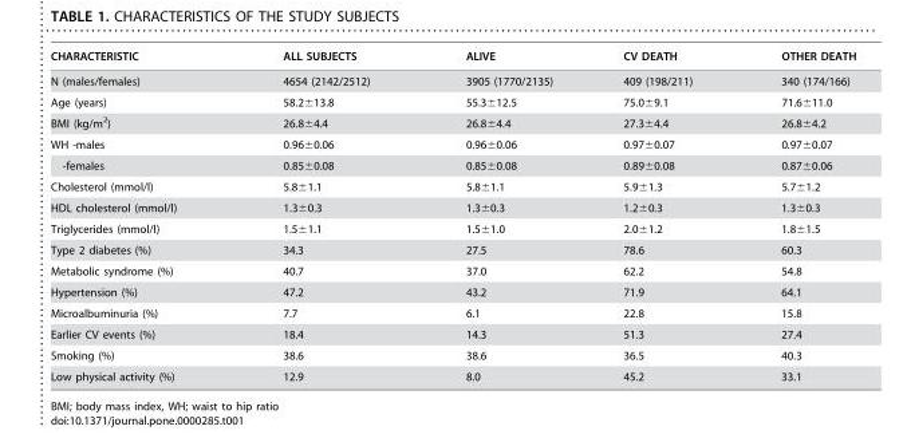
<table><thead><tr><td>CHARACTERISTIC</td><td>ALL SUBJECTS</td><td>ALIVE</td><td>CV DEATH</td><td>OTHER DEATH</td></tr></thead><tbody><tr><td>N (males/females)</td><td>4654 (2142/2512)</td><td>3905 (1770/2135)</td><td>409 (198/211)</td><td>340 (174/166)</td></tr><tr><td>Age (years)</td><td>58.2±13.8</td><td>55.3±12.5</td><td>75.0±9.1</td><td>71.6±11.0</td></tr><tr><td>BMI (kg/m<sup>2</sup>)</td><td>26.8±4.4</td><td>26.8±4.4</td><td>27.3±4.4</td><td>26.8±4.2</td></tr><tr><td>WH -males</td><td>0.96±0.06</td><td>0.96±0.06</td><td>0.97±0.07</td><td>0.97±0.07</td></tr><tr><td>-females</td><td>0.85±0.08</td><td>0.85±0.08</td><td>0.89±0.08</td><td>0.87±0.06</td></tr><tr><td>Cholesterol (mmol/l)</td><td>5.8±1.1</td><td>5.8±1.1</td><td>5.9±1.3</td><td>5.7±1.2</td></tr><tr><td>HDL cholesterol (mmol/l)</td><td>1.3±0.3</td><td>1.3±0.3</td><td>1.2±0.3</td><td>1.3±0.3</td></tr><tr><td>Triglycerides (mmol/l)</td><td>1.5±1.1</td><td>1.5±1.0</td><td>2.0±1.2</td><td>1.8±1.5</td></tr><tr><td>Type 2 diabetes (%)</td><td>34.3</td><td>27.5</td><td>78.6</td><td>60.3</td></tr><tr><td>Metabolic syndrome (%)</td><td>40.7</td><td>37.0</td><td>62.2</td><td>54.8</td></tr><tr><td>Hypertension (%)</td><td>47.2</td><td>43.2</td><td>71.9</td><td>64.1</td></tr><tr><td>Microalbuminuria (%)</td><td>7.7</td><td>6.1</td><td>22.8</td><td>15.8</td></tr><tr><td>Earlier CV events (%)</td><td>18.4</td><td>14.3</td><td>51.3</td><td>27.4</td></tr><tr><td>Smoking (%)</td><td>38.6</td><td>38.6</td><td>36.5</td><td>40.3</td></tr><tr><td>Low physical activity (%)</td><td>12.9</td><td>8.0</td><td>45.2</td><td>33.1</td></tr></tbody></table>